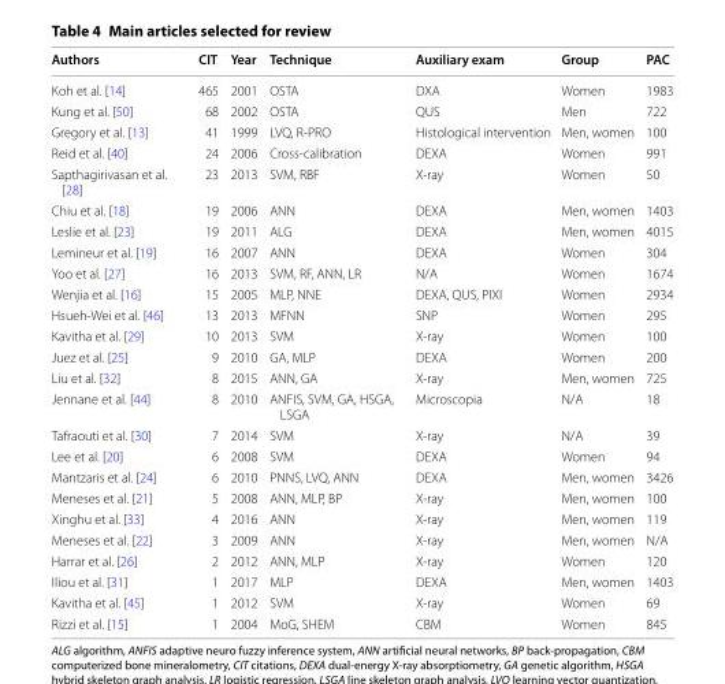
<table><thead><tr><td>Authors</td><td>CIT</td><td>Year</td><td>Technique</td><td>Auxiliary exam</td><td>Group</td><td>PAC</td></tr></thead><tbody><tr><td>Koh et al. [14]</td><td>465</td><td>2001</td><td>OSTA</td><td>DXA</td><td>Women</td><td>1983</td></tr><tr><td>Kung et al. [50]</td><td>68</td><td>2002</td><td>OSTA</td><td>QUS</td><td>Men</td><td>722</td></tr><tr><td>Gregory et al. [13]</td><td>41</td><td>1999</td><td>LVQ, R-PRO</td><td>Histological intervention</td><td>Men, women</td><td>100</td></tr><tr><td>Reid et al. [40]</td><td>24</td><td>2006</td><td>Cross-calibration</td><td>DEXA</td><td>Women</td><td>991</td></tr><tr><td>Sapthagirivasan et al. [28]</td><td>23</td><td>2013</td><td>SVM, RBF</td><td>X-ray</td><td>Women</td><td>50</td></tr><tr><td>Chiu et al. [18]</td><td>19</td><td>2006</td><td>ANN</td><td>DEXA</td><td>Men, women</td><td>1403</td></tr><tr><td>Leslie et al. [23]</td><td>19</td><td>2011</td><td>ALG</td><td>DEXA</td><td>Men, women</td><td>4015</td></tr><tr><td>Lemineur et al. [19]</td><td>16</td><td>2007</td><td>ANN</td><td>DEXA</td><td>Women</td><td>304</td></tr><tr><td>Yoo et al. [27]</td><td>16</td><td>2013</td><td>SVM, RF, ANN, LR</td><td>N/A</td><td>Women</td><td>1674</td></tr><tr><td>Wenjia et al. [16]</td><td>15</td><td>2005</td><td>MLP, NNE</td><td>DEXA, QUS, PIXI</td><td>Women</td><td>2934</td></tr><tr><td>Hsueh-Wei et al. [46]</td><td>13</td><td>2013</td><td>MFNN</td><td>SNP</td><td>Women</td><td>295</td></tr><tr><td>Kavitha et al. [29]</td><td>10</td><td>2013</td><td>SVM</td><td>X-ray</td><td>Women</td><td>100</td></tr><tr><td>Juez et al. [25]</td><td>9</td><td>2010</td><td>GA, MLP</td><td>DEXA</td><td>Women</td><td>200</td></tr><tr><td>Liu et al. [32]</td><td>8</td><td>2015</td><td>ANN, GA</td><td>X-ray</td><td>Men, women</td><td>725</td></tr><tr><td>Jennane et al. [44]</td><td>8</td><td>2010</td><td>ANFIS, SVM, GA, HSGA, LSGA</td><td>Microscopia</td><td>N/A</td><td>18</td></tr><tr><td>Tafraouti et al. [30]</td><td>7</td><td>2014</td><td>SVM</td><td>X-ray</td><td>N/A</td><td>39</td></tr><tr><td>Lee et al. [20]</td><td>6</td><td>2008</td><td>SVM</td><td>DEXA</td><td>Women</td><td>94</td></tr><tr><td>Mantzaris et al. [24]</td><td>6</td><td>2010</td><td>PNNS, LVQ, ANN</td><td>DEXA</td><td>Men, women</td><td>3426</td></tr><tr><td>Meneses et al. [21]</td><td>5</td><td>2008</td><td>ANN, MLP, BP</td><td>X-ray</td><td>Men, women</td><td>100</td></tr><tr><td>Xinghu et al. [33]</td><td>4</td><td>2016</td><td>ANN</td><td>X-ray</td><td>Men, women</td><td>119</td></tr><tr><td>Meneses et al. [22]</td><td>3</td><td>2009</td><td>ANN</td><td>X-ray</td><td>Men, women</td><td>N/A</td></tr><tr><td>Harrar et al. [26]</td><td>2</td><td>2012</td><td>ANN, MLP</td><td>X-ray</td><td>Women</td><td>120</td></tr><tr><td>Iliou et al. [31]</td><td>1</td><td>2017</td><td>MLP</td><td>DEXA</td><td>Men, women</td><td>1403</td></tr><tr><td>Kavitha et al. [45]</td><td>1</td><td>2012</td><td>SVM</td><td>X-ray</td><td>Women</td><td>69</td></tr><tr><td>Rizzi et al. [15]</td><td>1</td><td>2004</td><td>MoG, SHEM</td><td>CBM</td><td>Women</td><td>845</td></tr></tbody></table>